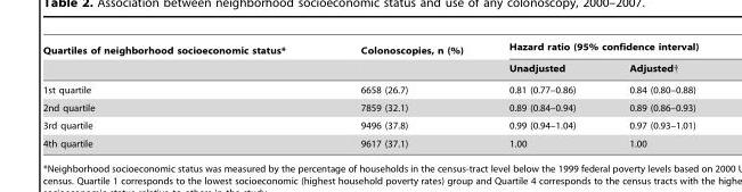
<table><thead><tr><td rowspan="2">Quartiles of neighborhood socioeconomic status*</td><td rowspan="2">Colonoscopies, n (%)</td><td colspan="2">Hazard ratio (95% confidence interval)</td></tr><tr><td>Unadjusted</td><td>Adjusted†</td></tr></thead><tbody><tr><td>1st quartile</td><td>6658 (26.7)</td><td>0.81 (0.77–0.86)</td><td>0.84 (0.80–0.88)</td></tr><tr><td>2nd quartile</td><td>7859 (32.1)</td><td>0.89 (0.84–0.94)</td><td>0.89 (0.86–0.93)</td></tr><tr><td>3rd quartile</td><td>9496 (37.8)</td><td>0.99 (0.94–1.04)</td><td>0.97 (0.93–1.01)</td></tr><tr><td>4th quartile</td><td>9617 (37.1)</td><td>1.00</td><td>1.00</td></tr></tbody></table>